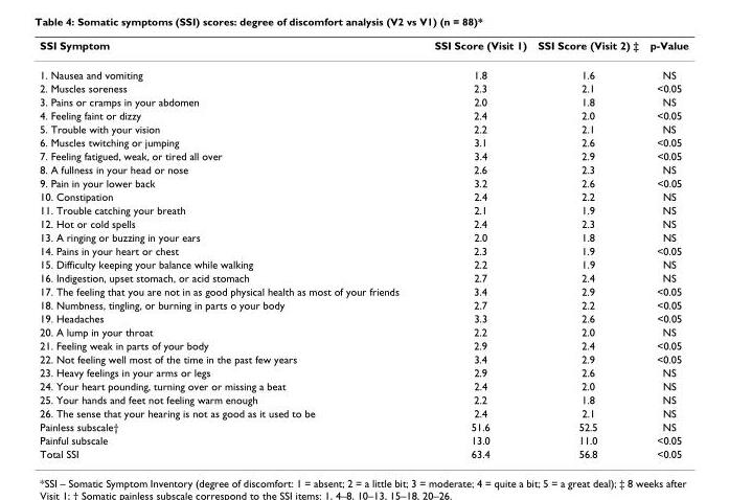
<table><thead><tr><td>SSI Symptom</td><td>SSI Score (Visit 1)</td><td>SSI Score (Visit 2) ‡</td><td>p-Value</td></tr></thead><tbody><tr><td>1. Nausea and vomiting</td><td>1.8</td><td>1.6</td><td>NS</td></tr><tr><td>2. Muscles soreness</td><td>2.3</td><td>2.1</td><td>&lt;0.05</td></tr><tr><td>3. Pains or cramps in your abdomen</td><td>2.0</td><td>1.8</td><td>NS</td></tr><tr><td>4. Feeling faint or dizzy</td><td>2.4</td><td>2.0</td><td>&lt;0.05</td></tr><tr><td>5. Trouble with your vision</td><td>2.2</td><td>2.1</td><td>NS</td></tr><tr><td>6. Muscles twitching or jumping</td><td>3.1</td><td>2.6</td><td>&lt;0.05</td></tr><tr><td>7. Feeling fatigued, weak, or tired all over</td><td>3.4</td><td>2.9</td><td>&lt;0.05</td></tr><tr><td>8. A fullness in your head or nose</td><td>2.6</td><td>2.3</td><td>NS</td></tr><tr><td>9. Pain in your lower back</td><td>3.2</td><td>2.6</td><td>&lt;0.05</td></tr><tr><td>10. Constipation</td><td>2.4</td><td>2.2</td><td>NS</td></tr><tr><td>11. Trouble catching your breath</td><td>2.1</td><td>1.9</td><td>NS</td></tr><tr><td>12. Hot or cold spells</td><td>2.4</td><td>2.3</td><td>NS</td></tr><tr><td>13. A ringing or buzzing in your ears</td><td>2.0</td><td>1.8</td><td>NS</td></tr><tr><td>14. Pains in your heart or chest</td><td>2.3</td><td>1.9</td><td>&lt;0.05</td></tr><tr><td>15. Difficulty keeping your balance while walking</td><td>2.2</td><td>1.9</td><td>NS</td></tr><tr><td>16. Indigestion, upset stomach, or acid stomach</td><td>2.7</td><td>2.4</td><td>NS</td></tr><tr><td>17. The feeling that you are not in as good physical health as most of your friends</td><td>3.4</td><td>2.9</td><td>&lt;0.05</td></tr><tr><td>18. Numbness, tingling, or burning in parts o your body</td><td>2.7</td><td>2.2</td><td>&lt;0.05</td></tr><tr><td>19. Headaches</td><td>3.3</td><td>2.6</td><td>&lt;0.05</td></tr><tr><td>20. A lump in your throat</td><td>2.2</td><td>2.0</td><td>NS</td></tr><tr><td>21. Feeling weak in parts of your body</td><td>2.9</td><td>2.4</td><td>&lt;0.05</td></tr><tr><td>22. Not feeling well most of the time in the past few years</td><td>3.4</td><td>2.9</td><td>&lt;0.05</td></tr><tr><td>23. Heavy feelings in your arms or legs</td><td>2.9</td><td>2.6</td><td>NS</td></tr><tr><td>24. Your heart pounding, turning over or missing a beat</td><td>2.4</td><td>2.0</td><td>NS</td></tr><tr><td>25. Your hands and feet not feeling warm enough</td><td>2.2</td><td>1.8</td><td>NS</td></tr><tr><td>26. The sense that your hearing is not as good as it used to be</td><td>2.4</td><td>2.1</td><td>NS</td></tr><tr><td>Painless subscale†</td><td>51.6</td><td>52.5</td><td>NS</td></tr><tr><td>Painful subscale</td><td>13.0</td><td>11.0</td><td>&lt;0.05</td></tr><tr><td>Total SSI</td><td>63.4</td><td>56.8</td><td>&lt;0.05</td></tr></tbody></table>